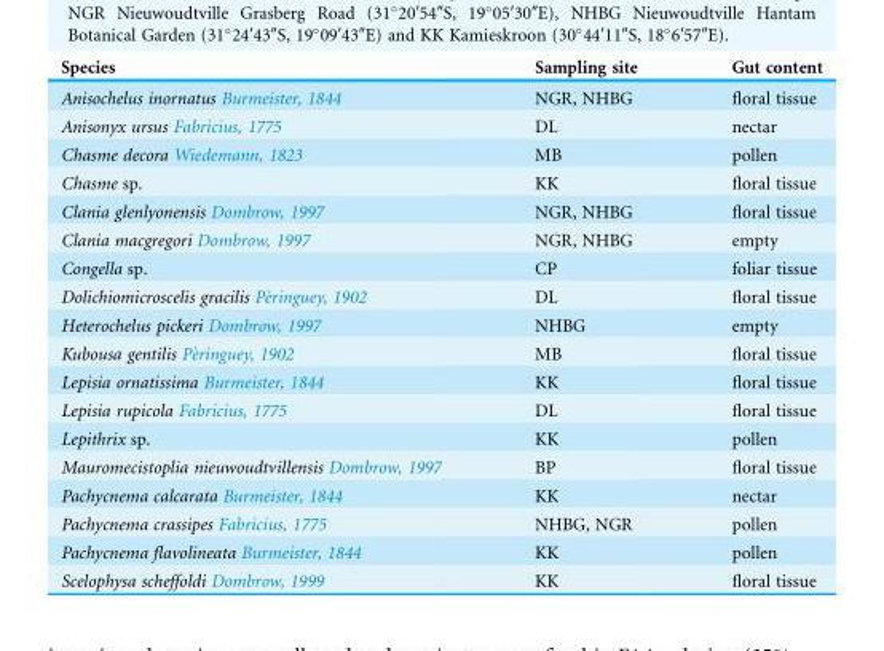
<table><thead><tr><td>Species</td><td>Sampling site</td><td>Gut content</td></tr></thead><tbody><tr><td>Anisochelus inornatus Burmeister, 1844</td><td>NGR, NHBG</td><td>floral tissue</td></tr><tr><td>Anisonyx ursus Fabricius, 1775</td><td>DL</td><td>nectar</td></tr><tr><td>Chasme decora Wiedemann, 1823</td><td>MB</td><td>pollen</td></tr><tr><td>Chasme sp.</td><td>KK</td><td>floral tissue</td></tr><tr><td>Clania glenlyonensis Dombrow, 1997</td><td>NGR, NHBG</td><td>floral tissue</td></tr><tr><td>Clania macgregori Dombrow, 1997</td><td>NGR, NHBG</td><td>empty</td></tr><tr><td>Congella sp.</td><td>CP</td><td>foliar tissue</td></tr><tr><td>Dolichiomicroscelis gracilis Pe`ringuey, 1902</td><td>DL</td><td>floral tissue</td></tr><tr><td>Heterochelus pickeri Dombrow, 1997</td><td>NHBG</td><td>empty</td></tr><tr><td>Kubousa gentilis Pe`ringuey, 1902</td><td>MB</td><td>floral tissue</td></tr><tr><td>Lepisia ornatissima Burmeister, 1844</td><td>KK</td><td>floral tissue</td></tr><tr><td>Lepisia rupicola Fabricius, 1775</td><td>DL</td><td>floral tissue</td></tr><tr><td>Lepithrix sp.</td><td>KK</td><td>pollen</td></tr><tr><td>Mauromecistoplia nieuwoudtvillensis Dombrow, 1997</td><td>BP</td><td>floral tissue</td></tr><tr><td>Pachycnema calcarata Burmeister, 1844</td><td>KK</td><td>nectar</td></tr><tr><td>Pachycnema crassipes Fabricius, 1775</td><td>NHBG, NGR</td><td>pollen</td></tr><tr><td>Pachycnema flavolineata Burmeister, 1844</td><td>KK</td><td>pollen</td></tr><tr><td>Scelophysa scheffoldi Dombrow, 1999</td><td>KK</td><td>floral tissue</td></tr></tbody></table>